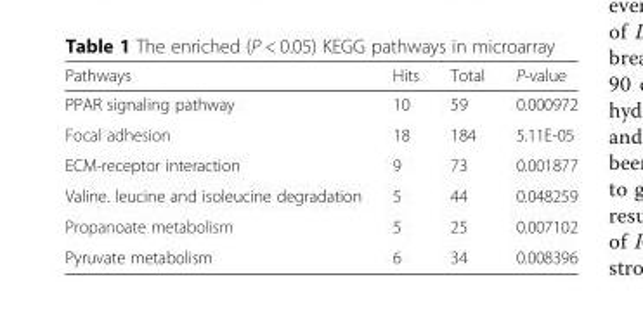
<table><thead><tr><td>Pathways</td><td>Hits</td><td>Total</td><td>P-value</td></tr></thead><tbody><tr><td>PPAR signaling pathway</td><td>10</td><td>59</td><td>0.000972</td></tr><tr><td>Focal adhesion</td><td>18</td><td>184</td><td>5.11E-05</td></tr><tr><td>ECM-receptor interaction</td><td>9</td><td>73</td><td>0.001877</td></tr><tr><td>Valine. leucine and isoleucine degradation</td><td>5</td><td>44</td><td>0.048259</td></tr><tr><td>Propanoate metabolism</td><td>5</td><td>25</td><td>0.007102</td></tr><tr><td>Pyruvate metabolism</td><td>6</td><td>34</td><td>0.008396</td></tr></tbody></table>